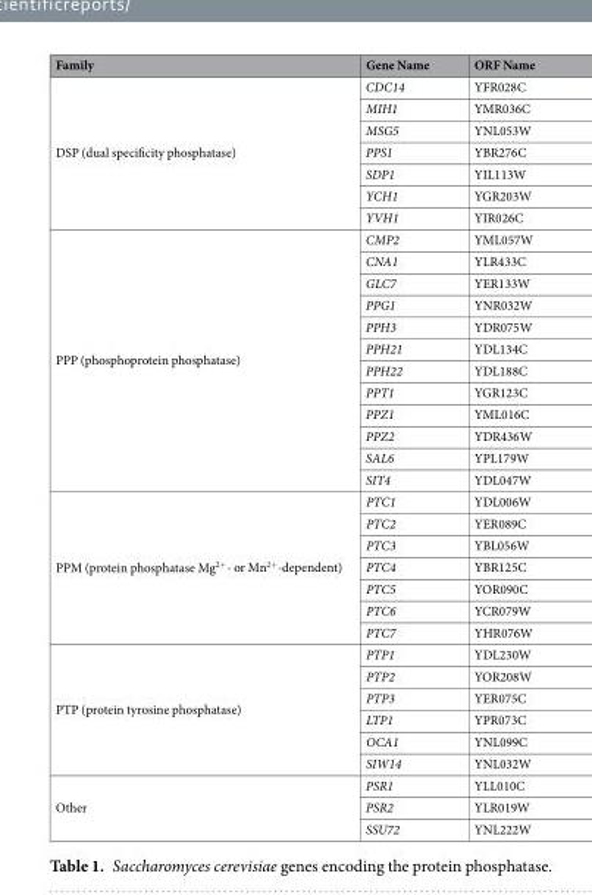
<table><thead><tr><td>Family</td><td>Gene Name</td><td>ORF Name</td></tr></thead><tbody><tr><td rowspan="7">DSP (dual specificity phosphatase)</td><td>CDC14</td><td>YFR028C</td></tr><tr><td>MIH1</td><td>YMR036C</td></tr><tr><td>MSG5</td><td>YNL053W</td></tr><tr><td>PPS1</td><td>YBR276C</td></tr><tr><td>SDP1</td><td>YIL113W</td></tr><tr><td>YCH1</td><td>YGR203W</td></tr><tr><td>YVH1</td><td>YIR026C</td></tr><tr><td rowspan="12">PPP (phosphoprotein phosphatase)</td><td>CMP2</td><td>YML057W</td></tr><tr><td>CNA1</td><td>YLR433C</td></tr><tr><td>GLC7</td><td>YER133W</td></tr><tr><td>PPG1</td><td>YNR032W</td></tr><tr><td>PPH3</td><td>YDR075W</td></tr><tr><td>PPH21</td><td>YDL134C</td></tr><tr><td>PPH22</td><td>YDL188C</td></tr><tr><td>PPT1</td><td>YGR123C</td></tr><tr><td>PPZ1</td><td>YML016C</td></tr><tr><td>PPZ2</td><td>YDR436W</td></tr><tr><td>SAL6</td><td>YPL179W</td></tr><tr><td>SIT4</td><td>YDL047W</td></tr><tr><td rowspan="7">PPM (protein phosphatase Mg<sup>2+</sup>- or Mn<sup>2+</sup>-dependent)</td><td>PTC1</td><td>YDL006W</td></tr><tr><td>PTC2</td><td>YER089C</td></tr><tr><td>PTC3</td><td>YBL056W</td></tr><tr><td>PTC4</td><td>YBR125C</td></tr><tr><td>PTC5</td><td>YOR090C</td></tr><tr><td>PTC6</td><td>YCR079W</td></tr><tr><td>PTC7</td><td>YHR076W</td></tr><tr><td rowspan="6">PTP (protein tyrosine phosphatase)</td><td>PTP1</td><td>YDL230W</td></tr><tr><td>PTP2</td><td>YOR208W</td></tr><tr><td>PTP3</td><td>YER075C</td></tr><tr><td>LTP1</td><td>YPR073C</td></tr><tr><td>OCA1</td><td>YNL099C</td></tr><tr><td>SIW14</td><td>YNL032W</td></tr><tr><td rowspan="3">Other</td><td>PSR1</td><td>YLL010C</td></tr><tr><td>PSR2</td><td>YLR019W</td></tr><tr><td>SSU72</td><td>YNL222W</td></tr></tbody></table>